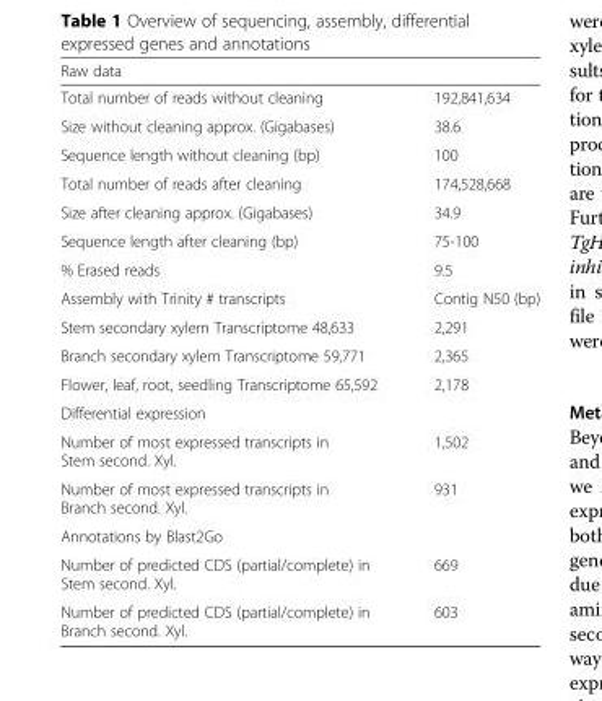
<table><thead><tr><td>Raw data</td><td></td></tr></thead><tbody><tr><td>Total number of reads without cleaning</td><td>192,841,634</td></tr><tr><td>Size without cleaning approx. (Gigabases)</td><td>38.6</td></tr><tr><td>Sequence length without cleaning (bp)</td><td>100</td></tr><tr><td>Total number of reads after cleaning</td><td>174,528,668</td></tr><tr><td>Size after cleaning approx. (Gigabases)</td><td>34.9</td></tr><tr><td>Sequence length after cleaning (bp)</td><td>75-100</td></tr><tr><td>% Erased reads</td><td>9.5</td></tr><tr><td>Assembly with Trinity # transcripts</td><td>Contig N50 (bp)</td></tr><tr><td>Stem secondary xylem Transcriptome 48,633</td><td>2,291</td></tr><tr><td>Branch secondary xylem Transcriptome 59,771</td><td>2,365</td></tr><tr><td>Flower, leaf, root, seedling Transcriptome 65,592</td><td>2,178</td></tr><tr><td colspan="2">Differential expression</td></tr><tr><td>Number of most expressed transcripts in Stem second. Xyl.</td><td>1,502</td></tr><tr><td>Number of most expressed transcripts in Branch second. Xyl.</td><td>931</td></tr><tr><td colspan="2">Annotations by Blast2Go</td></tr><tr><td>Number of predicted CDS (partial/complete) in Stem second. Xyl.</td><td>669</td></tr><tr><td>Number of predicted CDS (partial/complete) in Branch second. Xyl.</td><td>603</td></tr></tbody></table>